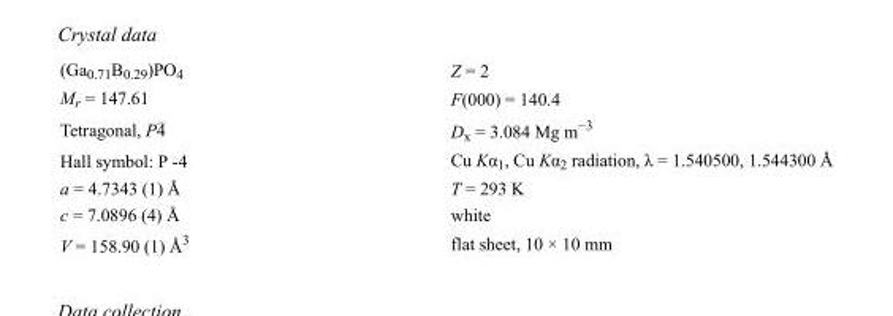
<table><tbody><tr><td>(Ga<sub>0.71</sub>B<sub>0.29</sub>)PO<sub>4</sub></td><td>Z = 2</td></tr><tr><td>M<sub>r</sub> = 147.61</td><td>F(000) = 140.4</td></tr><tr><td>Tetragonal, P4</td><td>D<sub>x</sub> = 3.084 Mg m<sup>−3</sup></td></tr><tr><td>Hall symbol: P -4</td><td>Cu Kα<sub>1</sub>, Cu Kα<sub>2</sub> radiation, λ = 1.540500, 1.544300 Å</td></tr><tr><td>a = 4.7343 (1) Å</td><td>T = 293 K</td></tr><tr><td>c = 7.0896 (4) Å</td><td>white</td></tr><tr><td>V = 158.90 (1) Å<sup>3</sup></td><td>flat sheet, 10 × 10 mm</td></tr></tbody></table>